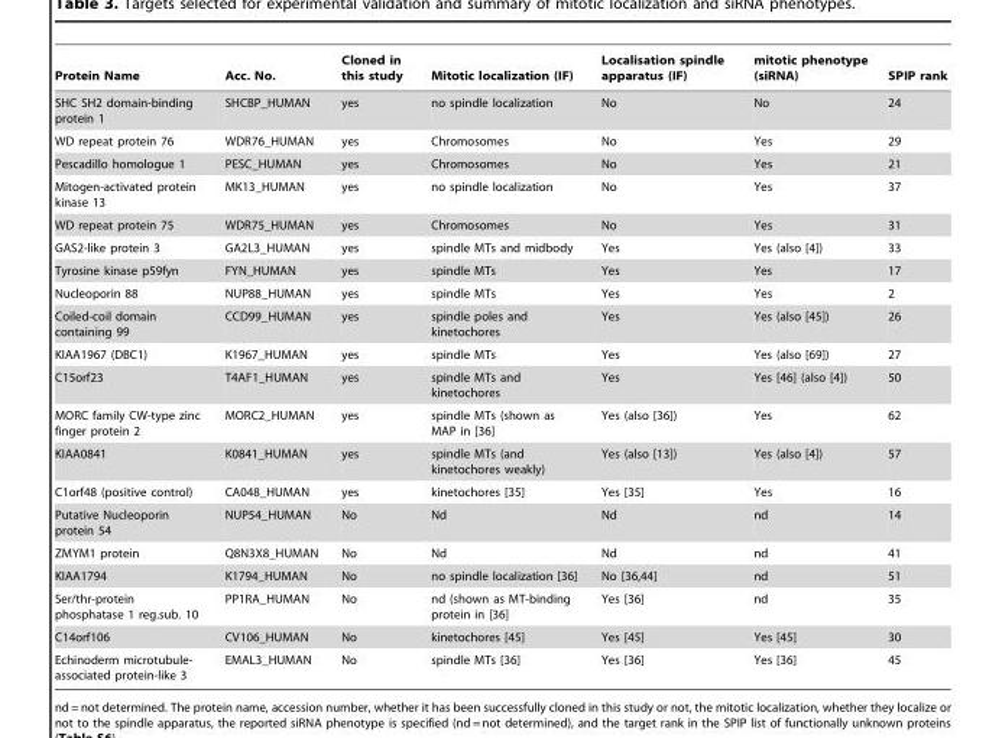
<table><thead><tr><td>Protein Name</td><td>Acc. No.</td><td>Cloned in this study</td><td>Mitotic localization (IF)</td><td>Localisation spindle apparatus (IF)</td><td>mitotic phenotype (siRNA)</td><td>SPIP rank</td></tr></thead><tbody><tr><td>SHC SH2 domain-binding protein 1</td><td>SHCBP_HUMAN</td><td>yes</td><td>no spindle localization</td><td>No</td><td>No</td><td>24</td></tr><tr><td>WD repeat protein 76</td><td>WDR76_HUMAN</td><td>yes</td><td>Chromosomes</td><td>No</td><td>Yes</td><td>29</td></tr><tr><td>Pescadillo homologue 1</td><td>PESC_HUMAN</td><td>yes</td><td>Chromosomes</td><td>No</td><td>Yes</td><td>21</td></tr><tr><td>Mitogen-activated protein kinase 13</td><td>MK13_HUMAN</td><td>yes</td><td>no spindle localization</td><td>No</td><td>Yes</td><td>37</td></tr><tr><td>WD repeat protein 75</td><td>WDR75_HUMAN</td><td>yes</td><td>Chromosomes</td><td>No</td><td>Yes</td><td>31</td></tr><tr><td>GAS2-like protein 3</td><td>GA2L3_HUMAN</td><td>yes</td><td>spindle MTs and midbody</td><td>Yes</td><td>Yes (also [4])</td><td>33</td></tr><tr><td>Tyrosine kinase p59fyn</td><td>FYN_HUMAN</td><td>yes</td><td>spindle MTs</td><td>Yes</td><td>Yes</td><td>17</td></tr><tr><td>Nucleoporin 88</td><td>NUP88_HUMAN</td><td>yes</td><td>spindle MTs</td><td>Yes</td><td>Yes</td><td>2</td></tr><tr><td>Coiled-coil domain containing 99</td><td>CCD99_HUMAN</td><td>yes</td><td>spindle poles and kinetochores</td><td>Yes</td><td>Yes (also [45])</td><td>26</td></tr><tr><td>KIAA1967 (DBC1)</td><td>K1967_HUMAN</td><td>yes</td><td>spindle MTs</td><td>Yes</td><td>Yes (also [69])</td><td>27</td></tr><tr><td>C15orf23</td><td>T4AF1_HUMAN</td><td>yes</td><td>spindle MTs and kinetochores</td><td>Yes</td><td>Yes [46] (also [4])</td><td>50</td></tr><tr><td>MORC family CW-type zinc finger protein 2</td><td>MORC2_HUMAN</td><td>yes</td><td>spindle MTs (shown as MAP in [36]</td><td>Yes (also [36])</td><td>Yes</td><td>62</td></tr><tr><td>KIAA0841</td><td>K0841_HUMAN</td><td>yes</td><td>spindle MTs (and kinetochores weakly)</td><td>Yes (also [13])</td><td>Yes (also [4])</td><td>57</td></tr><tr><td>C1orf48 (positive control)</td><td>CA048_HUMAN</td><td>yes</td><td>kinetochores [35]</td><td>Yes [35]</td><td>Yes</td><td>16</td></tr><tr><td>Putative Nucleoporin protein 54</td><td>NUP54_HUMAN</td><td>No</td><td>Nd</td><td>Nd</td><td>nd</td><td>14</td></tr><tr><td>ZMYM1 protein</td><td>Q8N3X8_HUMAN</td><td>No</td><td>Nd</td><td>Nd</td><td>nd</td><td>41</td></tr><tr><td>KIAA1794</td><td>K1794_HUMAN</td><td>No</td><td>no spindle localization [36]</td><td>No [36,44]</td><td>nd</td><td>51</td></tr><tr><td>Ser/thr-protein phosphatase 1 reg.sub. 10</td><td>PP1RA_HUMAN</td><td>No</td><td>nd (shown as MT-binding protein in [36]</td><td>Yes [36]</td><td>nd</td><td>35</td></tr><tr><td>C14orf106</td><td>CV106_HUMAN</td><td>No</td><td>kinetochores [45]</td><td>Yes [45]</td><td>Yes [45]</td><td>30</td></tr><tr><td>Echinoderm microtubule- associated protein-like 3</td><td>EMAL3_HUMAN</td><td>No</td><td>spindle MTs [36]</td><td>Yes [36]</td><td>Yes [36]</td><td>45</td></tr></tbody></table>